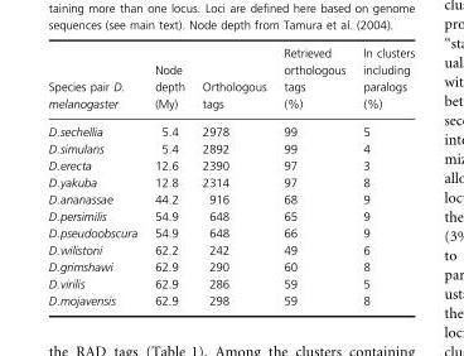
<table><thead><tr><td>Species pair D. melanogaster</td><td>Node depth (My)</td><td>Orthologous tags</td><td>Retrieved orthologous tags (%)</td><td>In clusters including paralogs (%)</td></tr></thead><tbody><tr><td>D.sechellia</td><td>5.4</td><td>2978</td><td>99</td><td>5</td></tr><tr><td>D.simulans</td><td>5.4</td><td>2892</td><td>99</td><td>4</td></tr><tr><td>D.erecta</td><td>12.6</td><td>2390</td><td>97</td><td>3</td></tr><tr><td>D.yakuba</td><td>12.8</td><td>2314</td><td>97</td><td>8</td></tr><tr><td>D.ananassae</td><td>44.2</td><td>916</td><td>68</td><td>9</td></tr><tr><td>D.persimilis</td><td>54.9</td><td>648</td><td>65</td><td>9</td></tr><tr><td>D.pseudoobscura</td><td>54.9</td><td>648</td><td>66</td><td>9</td></tr><tr><td>D.wilistoni</td><td>62.2</td><td>242</td><td>49</td><td>6</td></tr><tr><td>D.grimshawi</td><td>62.9</td><td>290</td><td>60</td><td>8</td></tr><tr><td>D.virilis</td><td>62.9</td><td>286</td><td>59</td><td>5</td></tr><tr><td>D.mojavensis</td><td>62.9</td><td>298</td><td>59</td><td>8</td></tr></tbody></table>